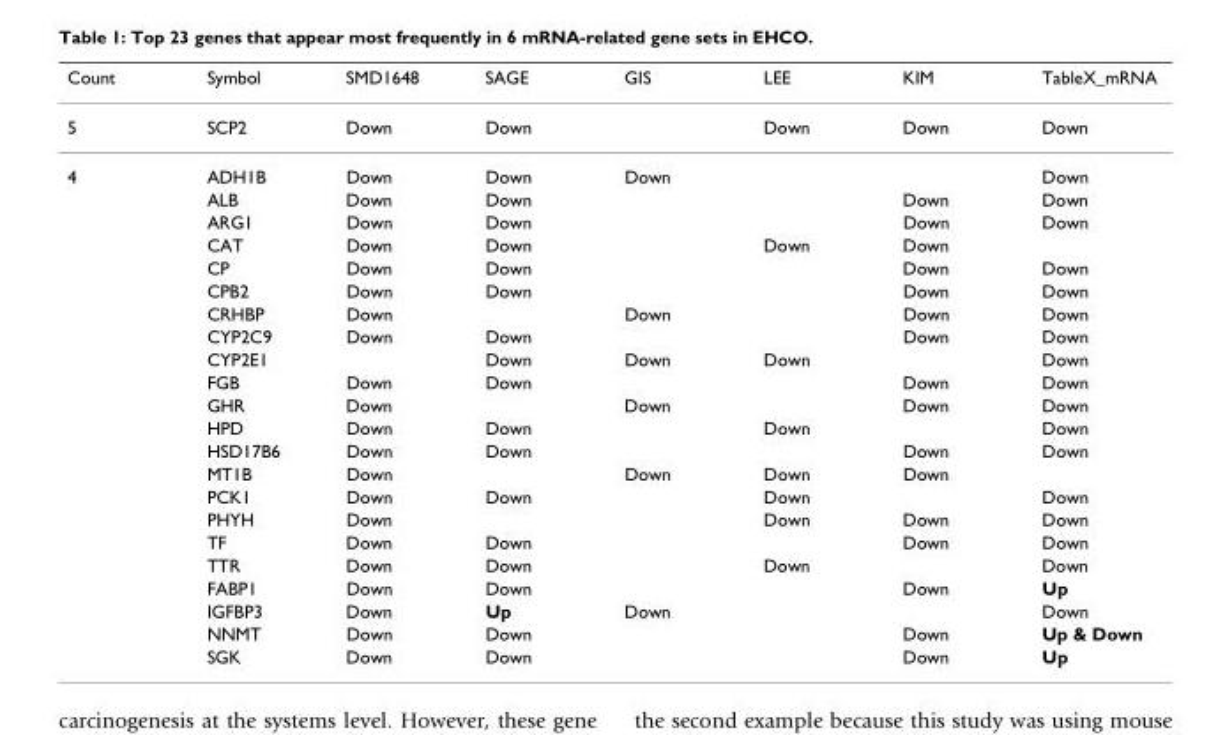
<table><thead><tr><td>Count</td><td>Symbol</td><td>SMD1648</td><td>SAGE</td><td>GIS</td><td>LEE</td><td>KIM</td><td>TableX_mRNA</td></tr></thead><tbody><tr><td>5</td><td>SCP2</td><td>Down</td><td>Down</td><td></td><td>Down</td><td>Down</td><td>Down</td></tr><tr><td rowspan="22">4</td><td>ADH1B</td><td>Down</td><td>Down</td><td>Down</td><td></td><td></td><td>Down</td></tr><tr><td>ALB</td><td>Down</td><td>Down</td><td></td><td></td><td>Down</td><td>Down</td></tr><tr><td>ARG1</td><td>Down</td><td>Down</td><td></td><td></td><td>Down</td><td>Down</td></tr><tr><td>CAT</td><td>Down</td><td>Down</td><td></td><td>Down</td><td>Down</td><td></td></tr><tr><td>CP</td><td>Down</td><td>Down</td><td></td><td></td><td>Down</td><td>Down</td></tr><tr><td>CPB2</td><td>Down</td><td>Down</td><td></td><td></td><td>Down</td><td>Down</td></tr><tr><td>CRHBP</td><td>Down</td><td></td><td>Down</td><td></td><td>Down</td><td>Down</td></tr><tr><td>CYP2C9</td><td>Down</td><td>Down</td><td></td><td></td><td>Down</td><td>Down</td></tr><tr><td>CYP2E1</td><td></td><td>Down</td><td>Down</td><td>Down</td><td></td><td>Down</td></tr><tr><td>FGB</td><td>Down</td><td>Down</td><td></td><td></td><td>Down</td><td>Down</td></tr><tr><td>GHR</td><td>Down</td><td></td><td>Down</td><td></td><td>Down</td><td>Down</td></tr><tr><td>HPD</td><td>Down</td><td>Down</td><td></td><td>Down</td><td></td><td>Down</td></tr><tr><td>HSD17B6</td><td>Down</td><td>Down</td><td></td><td></td><td>Down</td><td>Down</td></tr><tr><td>MT1B</td><td>Down</td><td></td><td>Down</td><td>Down</td><td>Down</td><td></td></tr><tr><td>PCK1</td><td>Down</td><td>Down</td><td></td><td>Down</td><td></td><td>Down</td></tr><tr><td>PHYH</td><td>Down</td><td></td><td></td><td>Down</td><td>Down</td><td>Down</td></tr><tr><td>TF</td><td>Down</td><td>Down</td><td></td><td></td><td>Down</td><td>Down</td></tr><tr><td>TTR</td><td>Down</td><td>Down</td><td></td><td>Down</td><td></td><td>Down</td></tr><tr><td>FABP1</td><td>Down</td><td>Down</td><td></td><td></td><td>Down</td><td>Up</td></tr><tr><td>IGFBP3</td><td>Down</td><td>Up</td><td>Down</td><td></td><td></td><td>Down</td></tr><tr><td>NNMT</td><td>Down</td><td>Down</td><td></td><td></td><td>Down</td><td>Up &amp; Down</td></tr><tr><td>SGK</td><td>Down</td><td>Down</td><td></td><td></td><td>Down</td><td>Up</td></tr></tbody></table>